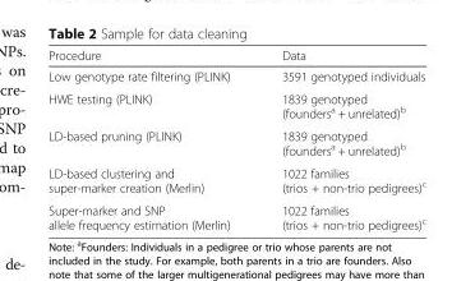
<table><thead><tr><td>Procedure</td><td>Data</td></tr></thead><tbody><tr><td>Low genotype rate filtering (PLINK)</td><td>3591 genotyped individuals</td></tr><tr><td>HWE testing (PLINK)</td><td>1839 genotyped (founders<sup>a</sup> + unrelated)<sup>b</sup></td></tr><tr><td>LD-based pruning (PLINK)</td><td>1839 genotyped (founders<sup>a</sup> + unrelated)<sup>b</sup></td></tr><tr><td>LD-based clustering and super-marker creation (Merlin)</td><td>1022 families (trios + non-trio pedigrees)<sup>c</sup></td></tr><tr><td>Super-marker and SNP allele frequency estimation (Merlin)</td><td>1022 families (trios + non-trio pedigrees)<sup>c</sup></td></tr></tbody></table>